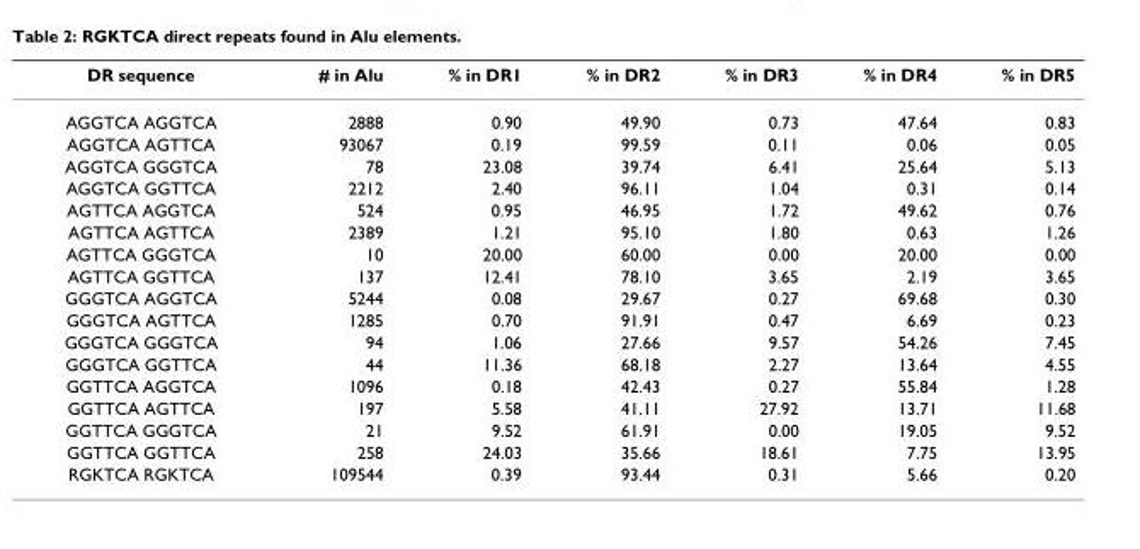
<table><thead><tr><td>DR sequence</td><td># in Alu</td><td>% in DR1</td><td>% in DR2</td><td>% in DR3</td><td>% in DR4</td><td>% in DR5</td></tr></thead><tbody><tr><td>AGGTCA AGGTCA</td><td>2888</td><td>0.90</td><td>49.90</td><td>0.73</td><td>47.64</td><td>0.83</td></tr><tr><td>AGGTCA AGTTCA</td><td>93067</td><td>0.19</td><td>99.59</td><td>0.11</td><td>0.06</td><td>0.05</td></tr><tr><td>AGGTCA GGGTCA</td><td>78</td><td>23.08</td><td>39.74</td><td>6.41</td><td>25.64</td><td>5.13</td></tr><tr><td>AGGTCA GGTTCA</td><td>2212</td><td>2.40</td><td>96.11</td><td>1.04</td><td>0.31</td><td>0.14</td></tr><tr><td>AGTTCA AGGTCA</td><td>524</td><td>0.95</td><td>46.95</td><td>1.72</td><td>49.62</td><td>0.76</td></tr><tr><td>AGTTCA AGTTCA</td><td>2389</td><td>1.21</td><td>95.10</td><td>1.80</td><td>0.63</td><td>1.26</td></tr><tr><td>AGTTCA GGGTCA</td><td>10</td><td>20.00</td><td>60.00</td><td>0.00</td><td>20.00</td><td>0.00</td></tr><tr><td>AGTTCA GGTTCA</td><td>137</td><td>12.41</td><td>78.10</td><td>3.65</td><td>2.19</td><td>3.65</td></tr><tr><td>GGGTCA AGGTCA</td><td>5244</td><td>0.08</td><td>29.67</td><td>0.27</td><td>69.68</td><td>0.30</td></tr><tr><td>GGGTCA AGTTCA</td><td>1285</td><td>0.70</td><td>91.91</td><td>0.47</td><td>6.69</td><td>0.23</td></tr><tr><td>GGGTCA GGGTCA</td><td>94</td><td>1.06</td><td>27.66</td><td>9.57</td><td>54.26</td><td>7.45</td></tr><tr><td>GGGTCA GGTTCA</td><td>44</td><td>11.36</td><td>68.18</td><td>2.27</td><td>13.64</td><td>4.55</td></tr><tr><td>GGTTCA AGGTCA</td><td>1096</td><td>0.18</td><td>42.43</td><td>0.27</td><td>55.84</td><td>1.28</td></tr><tr><td>GGTTCA AGTTCA</td><td>197</td><td>5.58</td><td>41.11</td><td>27.92</td><td>13.71</td><td>11.68</td></tr><tr><td>GGTTCA GGGTCA</td><td>21</td><td>9.52</td><td>61.91</td><td>0.00</td><td>19.05</td><td>9.52</td></tr><tr><td>GGTTCA GGTTCA</td><td>258</td><td>24.03</td><td>35.66</td><td>18.61</td><td>7.75</td><td>13.95</td></tr><tr><td>RGKTCA RGKTCA</td><td>109544</td><td>0.39</td><td>93.44</td><td>0.31</td><td>5.66</td><td>0.20</td></tr></tbody></table>